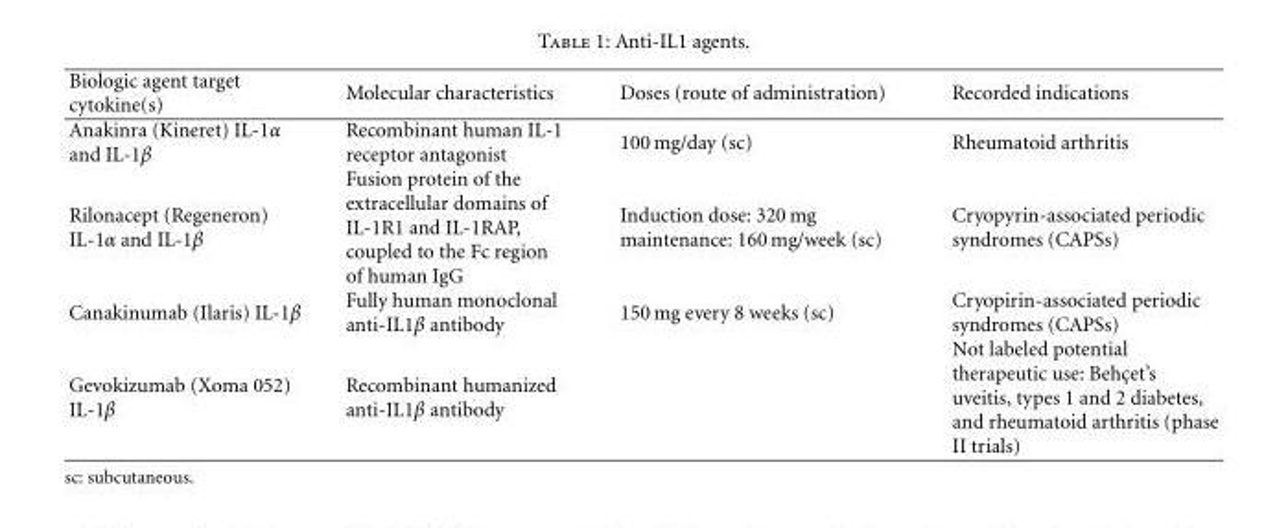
<table><thead><tr><td>Biologic agent target cytokine(s)</td><td>Molecular characteristics</td><td>Doses (route of administration)</td><td>Recorded indications</td></tr></thead><tbody><tr><td>Anakinra (Kineret) IL-1α and IL-1β</td><td>Recombinant human IL-1 receptor antagonist</td><td>100 mg/day (sc)</td><td>Rheumatoid arthritis</td></tr><tr><td>Rilonacept (Regeneron) IL-1α and IL-1β</td><td>Fusion protein of the extracellular domains of IL-1R1 and IL-1RAP, coupled to the Fc region of human IgG</td><td>Induction dose: 320 mg maintenance: 160 mg/week (sc)</td><td>Cryopyrin-associated periodic syndromes (CAPSs)</td></tr><tr><td>Canakinumab (Ilaris) IL-1β</td><td>Fully human monoclonal anti-IL1β antibody</td><td>150 mg every 8 weeks (sc)</td><td>Cryopirin-associated periodic syndromes (CAPSs)</td></tr><tr><td>Gevokizumab (Xoma 052) IL-1β</td><td>Recombinant humanized anti-IL1β antibody</td><td></td><td>Not labeled potential therapeutic use: Behc¸et’s uveitis, types 1 and 2 diabetes, and rheumatoid arthritis (phase II trials)</td></tr></tbody></table>